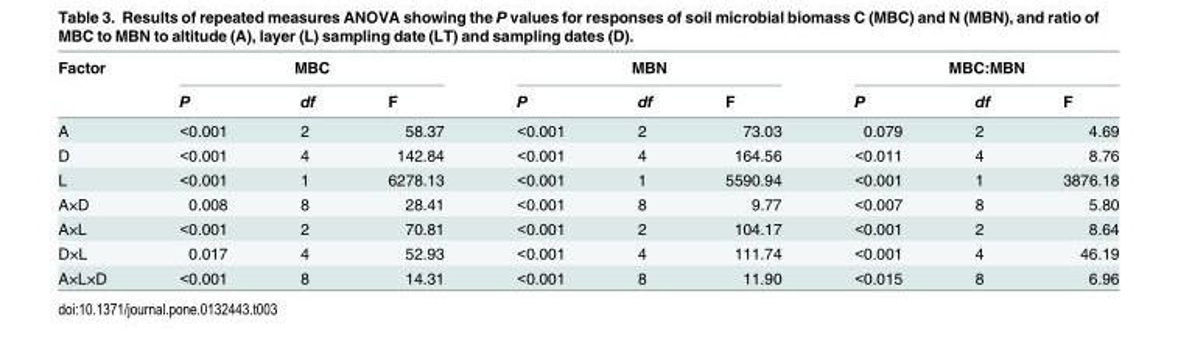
<table><thead><tr><td rowspan="2">Factor</td><td colspan="3">MBC</td><td colspan="3">MBN</td><td colspan="3">MBC:MBN</td></tr><tr><td>P</td><td>df</td><td>F</td><td>P</td><td>df</td><td>F</td><td>P</td><td>df</td><td>F</td></tr></thead><tbody><tr><td>A</td><td>&lt;0.001</td><td>2</td><td>58.37</td><td>&lt;0.001</td><td>2</td><td>73.03</td><td>0.079</td><td>2</td><td>4.69</td></tr><tr><td>D</td><td>&lt;0.001</td><td>4</td><td>142.84</td><td>&lt;0.001</td><td>4</td><td>164.56</td><td>&lt;0.011</td><td>4</td><td>8.76</td></tr><tr><td>L</td><td>&lt;0.001</td><td>1</td><td>6278.13</td><td>&lt;0.001</td><td>1</td><td>5590.94</td><td>&lt;0.001</td><td>1</td><td>3876.18</td></tr><tr><td>A×D</td><td>0.008</td><td>8</td><td>28.41</td><td>&lt;0.001</td><td>8</td><td>9.77</td><td>&lt;0.007</td><td>8</td><td>5.80</td></tr><tr><td>A×L</td><td>&lt;0.001</td><td>2</td><td>70.81</td><td>&lt;0.001</td><td>2</td><td>104.17</td><td>&lt;0.001</td><td>2</td><td>8.64</td></tr><tr><td>D×L</td><td>0.017</td><td>4</td><td>52.93</td><td>&lt;0.001</td><td>4</td><td>111.74</td><td>&lt;0.001</td><td>4</td><td>46.19</td></tr><tr><td>A×L×D</td><td>&lt;0.001</td><td>8</td><td>14.31</td><td>&lt;0.001</td><td>8</td><td>11.90</td><td>&lt;0.015</td><td>8</td><td>6.96</td></tr></tbody></table>